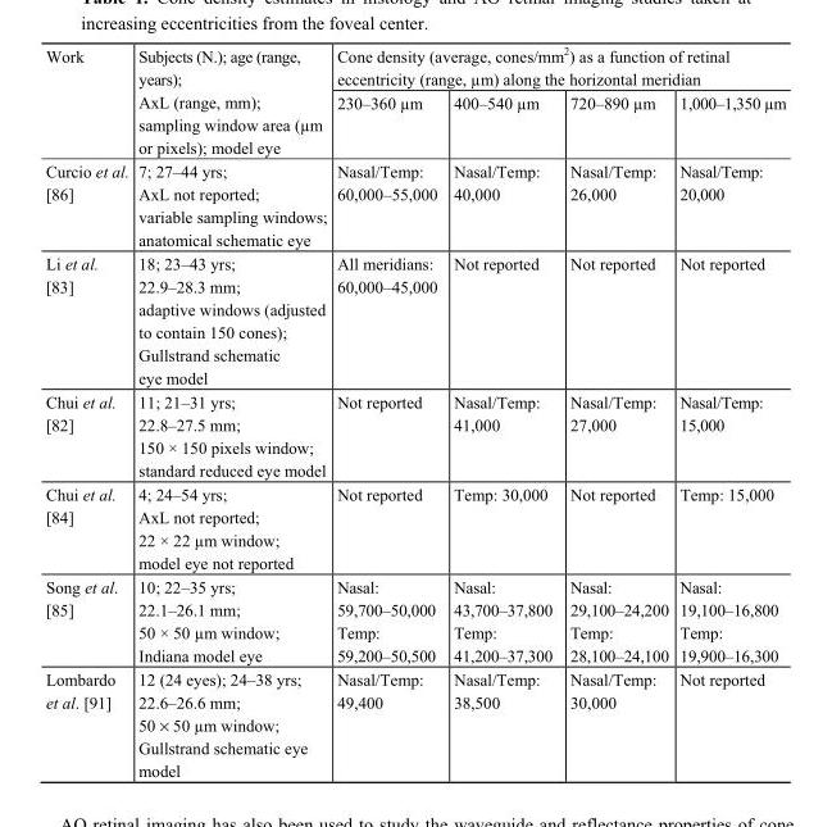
<table><thead><tr><td rowspan="2">Work</td><td rowspan="2">Subjects (N.); age (range, years); AxL (range, mm); sampling window area (µm or pixels); model eye</td><td colspan="4">Cone density (average, cones/mm<sup>2</sup>) as a function of retinal eccentricity (range, µm) along the horizontal meridian</td></tr><tr><td>230–360 µm</td><td>400–540 µm</td><td>720–890 µm</td><td>1,000–1,350 µm</td></tr></thead><tbody><tr><td>Curcio et al. [86]</td><td>7; 27–44 yrs; AxL not reported; variable sampling windows; anatomical schematic eye</td><td>Nasal/Temp: 60,000–55,000</td><td>Nasal/Temp: 40,000</td><td>Nasal/Temp: 26,000</td><td>Nasal/Temp: 20,000</td></tr><tr><td>Li et al. [83]</td><td>18; 23–43 yrs; 22.9–28.3 mm; adaptive windows (adjusted to contain 150 cones); Gullstrand schematic eye model</td><td>All meridians: 60,000–45,000</td><td>Not reported</td><td>Not reported</td><td>Not reported</td></tr><tr><td>Chui et al. [82]</td><td>11; 21–31 yrs; 22.8–27.5 mm; 150 × 150 pixels window; standard reduced eye model</td><td>Not reported</td><td>Nasal/Temp: 41,000</td><td>Nasal/Temp: 27,000</td><td>Nasal/Temp: 15,000</td></tr><tr><td>Chui et al. [84]</td><td>4; 24–54 yrs; AxL not reported; 22 × 22 µm window; model eye not reported</td><td>Not reported</td><td>Temp: 30,000</td><td>Not reported</td><td>Temp: 15,000</td></tr><tr><td>Song et al. [85]</td><td>10; 22–35 yrs; 22.1–26.1 mm; 50 × 50 µm window; Indiana model eye</td><td>Nasal: 59,700–50,000 Temp: 59,200–50,500</td><td>Nasal: 43,700–37,800 Temp: 41,200–37,300</td><td>Nasal: 29,100–24,200 Temp: 28,100–24,100</td><td>Nasal: 19,100–16,800 Temp: 19,900–16,300</td></tr><tr><td>Lombardo et al. [91]</td><td>12 (24 eyes); 24–38 yrs; 22.6–26.6 mm; 50 × 50 µm window; Gullstrand schematic eye model</td><td>Nasal/Temp: 49,400</td><td>Nasal/Temp: 38,500</td><td>Nasal/Temp: 30,000</td><td>Not reported</td></tr></tbody></table>